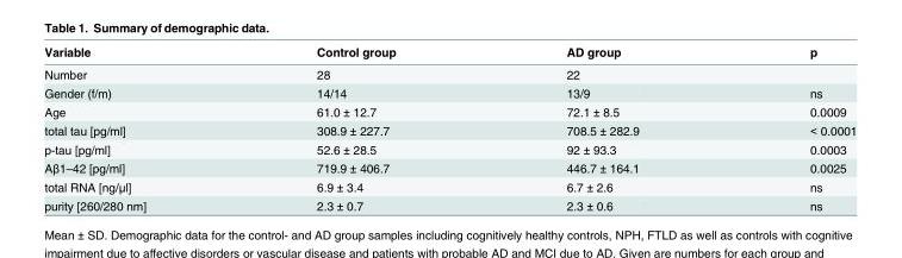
<table><thead><tr><td>Variable</td><td>Control group</td><td>AD group</td><td>p</td></tr></thead><tbody><tr><td>Number</td><td>28</td><td>22</td><td></td></tr><tr><td>Gender (f/m)</td><td>14/14</td><td>13/9</td><td>ns</td></tr><tr><td>Age</td><td>61.0 ± 12.7</td><td>72.1 ± 8.5</td><td>0.0009</td></tr><tr><td>total tau [pg/ml]</td><td>308.9 ± 227.7</td><td>708.5 ± 282.9</td><td>&lt; 0.0001</td></tr><tr><td>p-tau [pg/ml]</td><td>52.6 ± 28.5</td><td>92 ± 93.3</td><td>0.0003</td></tr><tr><td>Aβ1–42 [pg/ml]</td><td>719.9 ± 406.7</td><td>446.7 ± 164.1</td><td>0.0025</td></tr><tr><td>total RNA [ng/μl]</td><td>6.9 ± 3.4</td><td>6.7 ± 2.6</td><td>ns</td></tr><tr><td>purity [260/280 nm]</td><td>2.3 ± 0.7</td><td>2.3 ± 0.6</td><td>ns</td></tr></tbody></table>